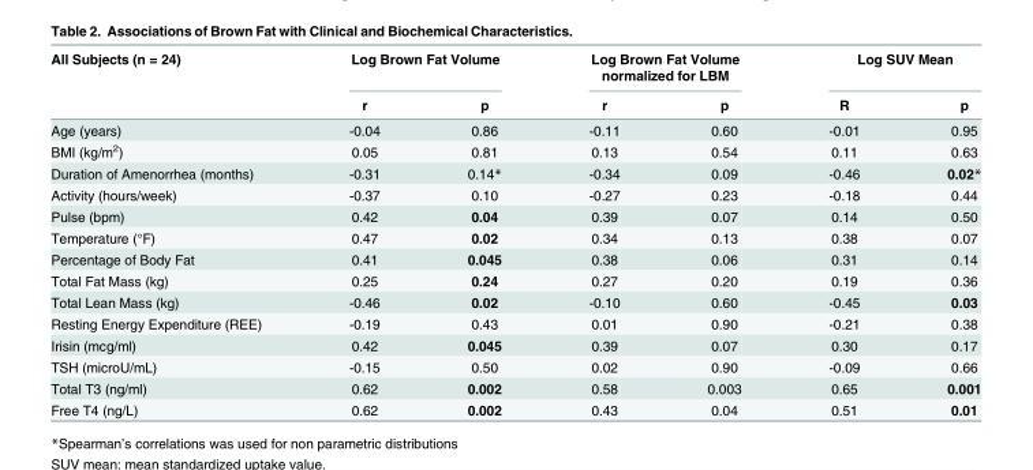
<table><thead><tr><td rowspan="2">All Subjects (n = 24)</td><td colspan="2">Log Brown Fat Volume</td><td colspan="2">Log Brown Fat Volume normalized for LBM</td><td colspan="2">Log SUV Mean</td></tr><tr><td>r</td><td>p</td><td>r</td><td>p</td><td>R</td><td>p</td></tr></thead><tbody><tr><td>Age (years)</td><td>-0.04</td><td>0.86</td><td>-0.11</td><td>0.60</td><td>-0.01</td><td>0.95</td></tr><tr><td>BMI (kg/m<sup>2</sup>)</td><td>0.05</td><td>0.81</td><td>0.13</td><td>0.54</td><td>0.11</td><td>0.63</td></tr><tr><td>Duration of Amenorrhea (months)</td><td>-0.31</td><td>0.14*</td><td>-0.34</td><td>0.09</td><td>-0.46</td><td>0.02*</td></tr><tr><td>Activity (hours/week)</td><td>-0.37</td><td>0.10</td><td>-0.27</td><td>0.23</td><td>-0.18</td><td>0.44</td></tr><tr><td>Pulse (bpm)</td><td>0.42</td><td>0.04</td><td>0.39</td><td>0.07</td><td>0.14</td><td>0.50</td></tr><tr><td>Temperature (°F)</td><td>0.47</td><td>0.02</td><td>0.34</td><td>0.13</td><td>0.38</td><td>0.07</td></tr><tr><td>Percentage of Body Fat</td><td>0.41</td><td>0.045</td><td>0.38</td><td>0.06</td><td>0.31</td><td>0.14</td></tr><tr><td>Total Fat Mass (kg)</td><td>0.25</td><td>0.24</td><td>0.27</td><td>0.20</td><td>0.19</td><td>0.36</td></tr><tr><td>Total Lean Mass (kg)</td><td>-0.46</td><td>0.02</td><td>-0.10</td><td>0.60</td><td>-0.45</td><td>0.03</td></tr><tr><td>Resting Energy Expenditure (REE)</td><td>-0.19</td><td>0.43</td><td>0.01</td><td>0.90</td><td>-0.21</td><td>0.38</td></tr><tr><td>Irisin (mcg/ml)</td><td>0.42</td><td>0.045</td><td>0.39</td><td>0.07</td><td>0.30</td><td>0.17</td></tr><tr><td>TSH (microU/mL)</td><td>-0.15</td><td>0.50</td><td>0.02</td><td>0.90</td><td>-0.09</td><td>0.66</td></tr><tr><td>Total T3 (ng/ml)</td><td>0.62</td><td>0.002</td><td>0.58</td><td>0.003</td><td>0.65</td><td>0.001</td></tr><tr><td>Free T4 (ng/L)</td><td>0.62</td><td>0.002</td><td>0.43</td><td>0.04</td><td>0.51</td><td>0.01</td></tr></tbody></table>